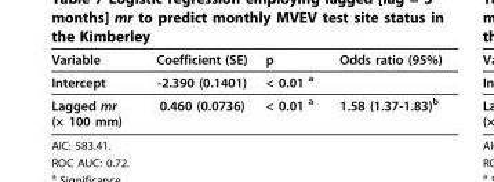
<table><thead><tr><td>Variable</td><td>Coefficient (SE)</td><td>p</td><td>Odds ratio (95%)</td></tr></thead><tbody><tr><td>Intercept</td><td>-2.390 (0.1401)</td><td>&lt; 0.01 <sup>a</sup></td><td></td></tr><tr><td>Lagged mr (× 100 mm)</td><td>0.460 (0.0736)</td><td>&lt; 0.01 <sup>a</sup></td><td>1.58 (1.37-1.83)<sup>b</sup></td></tr></tbody></table>